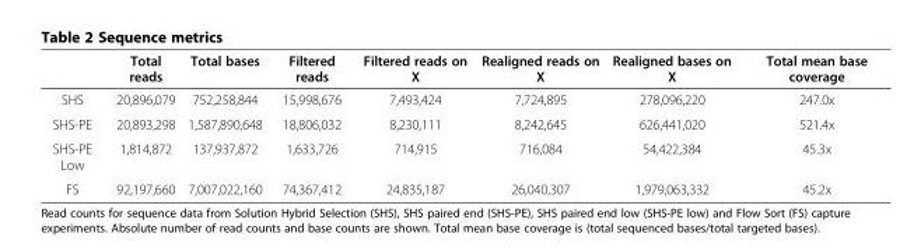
<table><thead><tr><td></td><td>Total reads</td><td>Total bases</td><td>Filtered reads</td><td>Filtered reads on X</td><td>Realigned reads on X</td><td>Realigned bases on X</td><td>Total mean base coverage</td></tr></thead><tbody><tr><td>SHS</td><td>20,896,079</td><td>752,258,844</td><td>15,998,676</td><td>7,493,424</td><td>7,724,895</td><td>278,096,220</td><td>247.0x</td></tr><tr><td>SHS-PE</td><td>20,893,298</td><td>1,587,890,648</td><td>18,806,032</td><td>8,230,111</td><td>8,242,645</td><td>626,441,020</td><td>521.4x</td></tr><tr><td>SHS-PE Low</td><td>1,814,872</td><td>137,937,872</td><td>1,633,726</td><td>714,915</td><td>716,084</td><td>54,422,384</td><td>45.3x</td></tr><tr><td>FS</td><td>92,197,660</td><td>7,007,022,160</td><td>74,367,412</td><td>24,835,187</td><td>26,040,307</td><td>1,979,063,332</td><td>45.2x</td></tr></tbody></table>